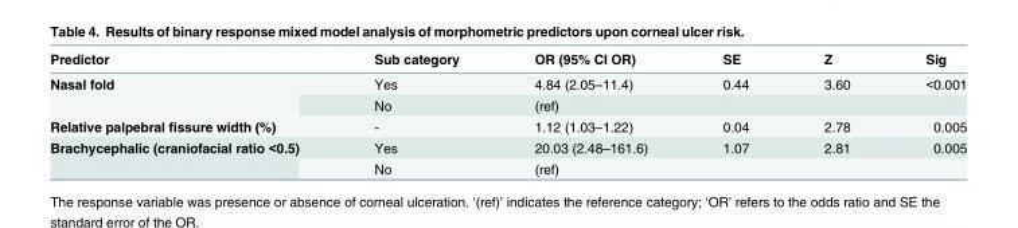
<table><thead><tr><td>Predictor</td><td>Sub category</td><td>OR (95% CI OR)</td><td>SE</td><td>Z</td><td>Sig</td></tr></thead><tbody><tr><td rowspan="2">Nasal fold</td><td>Yes</td><td>4.84 (2.05–11.4)</td><td>0.44</td><td>3.60</td><td>&lt;0.001</td></tr><tr><td>No</td><td colspan="4">(ref)</td></tr><tr><td>Relative palpebral fissure width (%)</td><td>-</td><td>1.12 (1.03–1.22)</td><td>0.04</td><td>2.78</td><td>0.005</td></tr><tr><td rowspan="2">Brachycephalic (craniofacial ratio &lt;0.5)</td><td>Yes</td><td>20.03 (2.48–161.6)</td><td>1.07</td><td>2.81</td><td>0.005</td></tr><tr><td>No</td><td colspan="4">(ref)</td></tr></tbody></table>